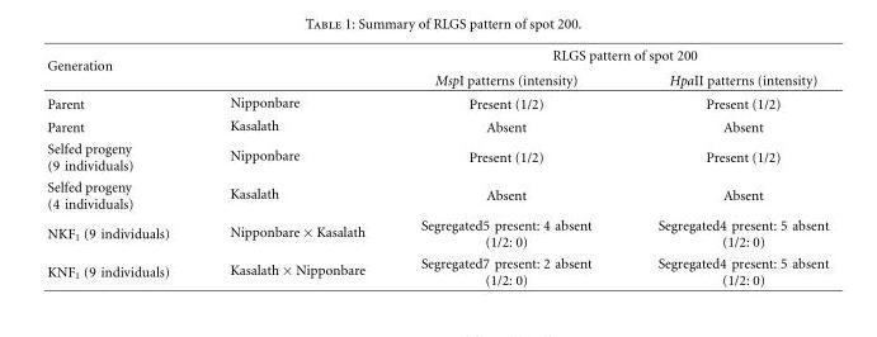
<table><thead><tr><td rowspan="2">Generation</td><td rowspan="2"></td><td colspan="2">RLGS pattern of spot 200</td></tr><tr><td>MspI patterns (intensity)</td><td>HpaII patterns (intensity)</td></tr></thead><tbody><tr><td>Parent</td><td>Nipponbare</td><td>Present (1/2)</td><td>Present (1/2)</td></tr><tr><td>Parent</td><td>Kasalath</td><td>Absent</td><td>Absent</td></tr><tr><td>Selfed progeny (9 individuals)</td><td>Nipponbare</td><td>Present (1/2)</td><td>Present (1/2)</td></tr><tr><td>Selfed progeny (4 individuals)</td><td>Kasalath</td><td>Absent</td><td>Absent</td></tr><tr><td>NKF<sub>1</sub> (9 individuals)</td><td>Nipponbare × Kasalath</td><td>Segregated5 present: 4 absent (1/2: 0)</td><td>Segregated4 present: 5 absent (1/2: 0)</td></tr><tr><td>KNF<sub>1</sub> (9 individuals)</td><td>Kasalath × Nipponbare</td><td>Segregated7 present: 2 absent (1/2: 0)</td><td>Segregated4 present: 5 absent (1/2: 0)</td></tr></tbody></table>